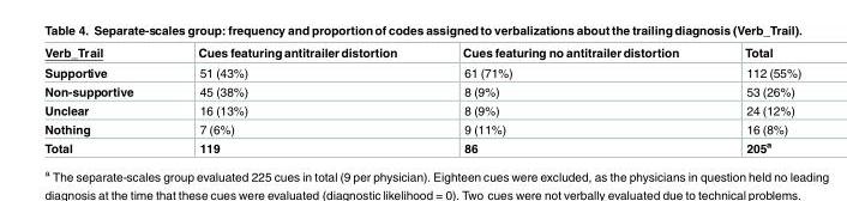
<table><thead><tr><td>Verb_Trail</td><td>Cues featuring antitrailerdistortion</td><td>Cues featuring no antitrailerdistortion</td><td>Total</td></tr></thead><tbody><tr><td>Supportive</td><td>51 (43%)</td><td>61 (71%)</td><td>112 (55%)</td></tr><tr><td>Non-supportive</td><td>45 (38%)</td><td>8 (9%)</td><td>53 (26%)</td></tr><tr><td>Unclear</td><td>16 (13%)</td><td>8 (9%)</td><td>24 (12%)</td></tr><tr><td>Nothing</td><td>7 (6%)</td><td>9 (11%)</td><td>16 (8%)</td></tr><tr><td>Total</td><td>119</td><td>86</td><td>205<sup>a</sup></td></tr></tbody></table>